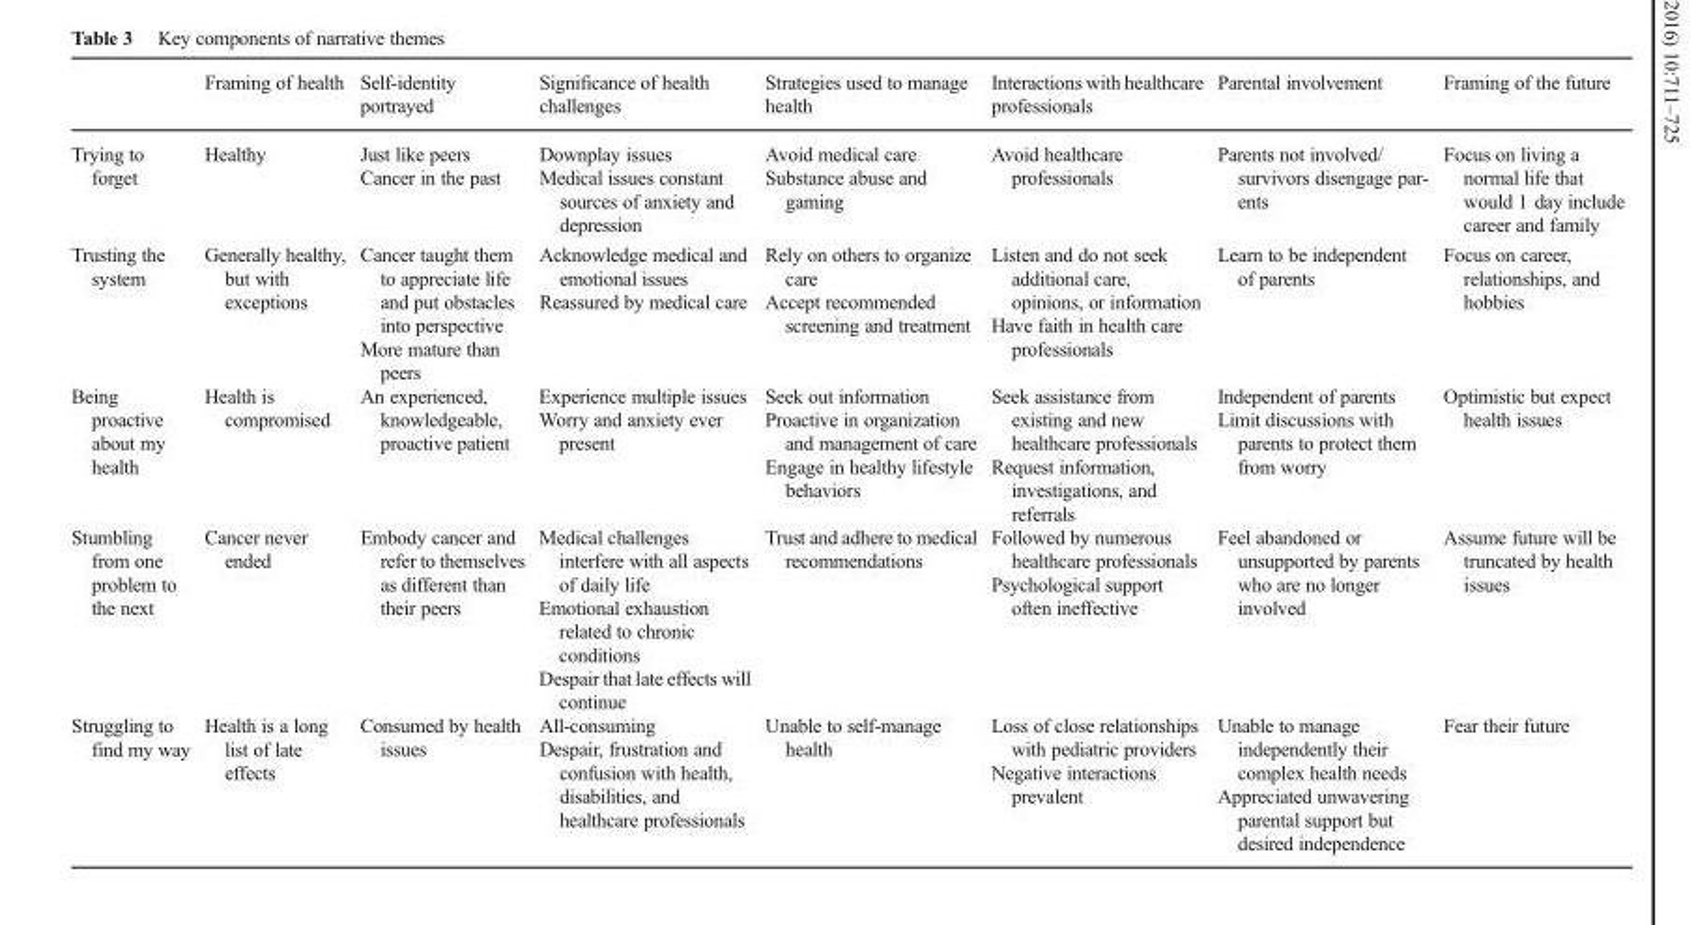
<table><thead><tr><td></td><td>Framing of health</td><td>Self-identity portrayed</td><td>Significance of health challenges</td><td>Strategies used to manage health</td><td>Interactions with healthcare professionals</td><td>Parental involvement</td><td>Framing of the future</td></tr></thead><tbody><tr><td>Trying to forget</td><td>Healthy</td><td>Just like peers Cancer in the past</td><td>Downplay issues Medical issues constant sources of anxiety and depression</td><td>Avoid medical care Substance abuse and gaming</td><td>Avoid healthcare professionals</td><td>Parents not involved/ survivors disengage par- ents</td><td>Focus on living a normal life that would 1 day include career and family</td></tr><tr><td>Trusting the system</td><td>Generally healthy, but with exceptions</td><td>Cancer taught them to appreciate life and put obstacles into perspective More mature than peers</td><td>Acknowledge medical and emotional issues Reassured by medical care</td><td>Rely on others to organize care Accept recommended screening and treatment</td><td>Listen and do not seek additional care, opinions, or information Have faith in health care professionals</td><td>Learn to be independent of parents</td><td>Focus on career, relationships, and hobbies</td></tr><tr><td>Being proactive about my health</td><td>Health is compromised</td><td>An experienced, knowledgeable, proactive patient</td><td>Experience multiple issues Worry and anxiety ever present</td><td>Seek out information Proactive in organization and management of care Engage in healthy lifestyle behaviors</td><td>Seek assistance from existing and new healthcare professionals Request information, investigations, and referrals</td><td>Independent of parents Limit discussions with parents to protect them from worry</td><td>Optimistic but expect health issues</td></tr><tr><td>Stumbling from one problem to the next</td><td>Cancer never ended</td><td>Embody cancer and refer to themselves as different than their peers</td><td>Medical challenges interfere with all aspects of daily life Emotional exhaustion related to chronic conditions Despair that late effects will continue</td><td>Trust and adhere to medical recommendations</td><td>Followed by numerous healthcare professionals Psychological support often ineffective</td><td>Feel abandoned or unsupported by parents who are no longer involved</td><td>Assume future will be truncated by health issues</td></tr><tr><td>Struggling to find my way</td><td>Health is a long list of late effects</td><td>Consumed by health issues</td><td>All-consuming Despair, frustration and confusion with health, disabilities, and healthcare professionals</td><td>Unable to self-manage health</td><td>Loss of close relationships with pediatric providers Negative interactions prevalent</td><td>Unable to manage independently their complex health needs Appreciated unwavering parental support but desired independence</td><td>Fear their future</td></tr></tbody></table>